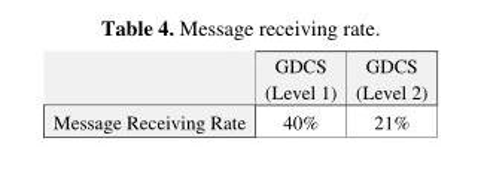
<table><thead><tr><td></td><td>GDCS (Level 1)</td><td>GDCS (Level 2)</td></tr></thead><tbody><tr><td>Message Receiving Rate</td><td>40%</td><td>21%</td></tr></tbody></table>